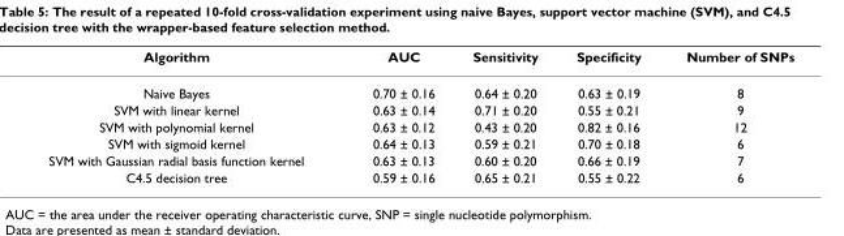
<table><thead><tr><td>Algorithm</td><td>AUC</td><td>Sensitivity</td><td>Specificity</td><td>Number of SNPs</td></tr></thead><tbody><tr><td>Naive Bayes</td><td>0.70 ± 0.16</td><td>0.64 ± 0.20</td><td>0.63 ± 0.19</td><td>8</td></tr><tr><td>SVM with linear kernel</td><td>0.63 ± 0.14</td><td>0.71 ± 0.20</td><td>0.55 ± 0.21</td><td>9</td></tr><tr><td>SVM with polynomial kernel</td><td>0.63 ± 0.12</td><td>0.43 ± 0.20</td><td>0.82 ± 0.16</td><td>12</td></tr><tr><td>SVM with sigmoid kernel</td><td>0.64 ± 0.13</td><td>0.59 ± 0.21</td><td>0.70 ± 0.18</td><td>6</td></tr><tr><td>SVM with Gaussian radial basis function kernel</td><td>0.63 ± 0.13</td><td>0.60 ± 0.20</td><td>0.66 ± 0.19</td><td>7</td></tr><tr><td>C4.5 decision tree</td><td>0.59 ± 0.16</td><td>0.65 ± 0.21</td><td>0.55 ± 0.22</td><td>6</td></tr></tbody></table>